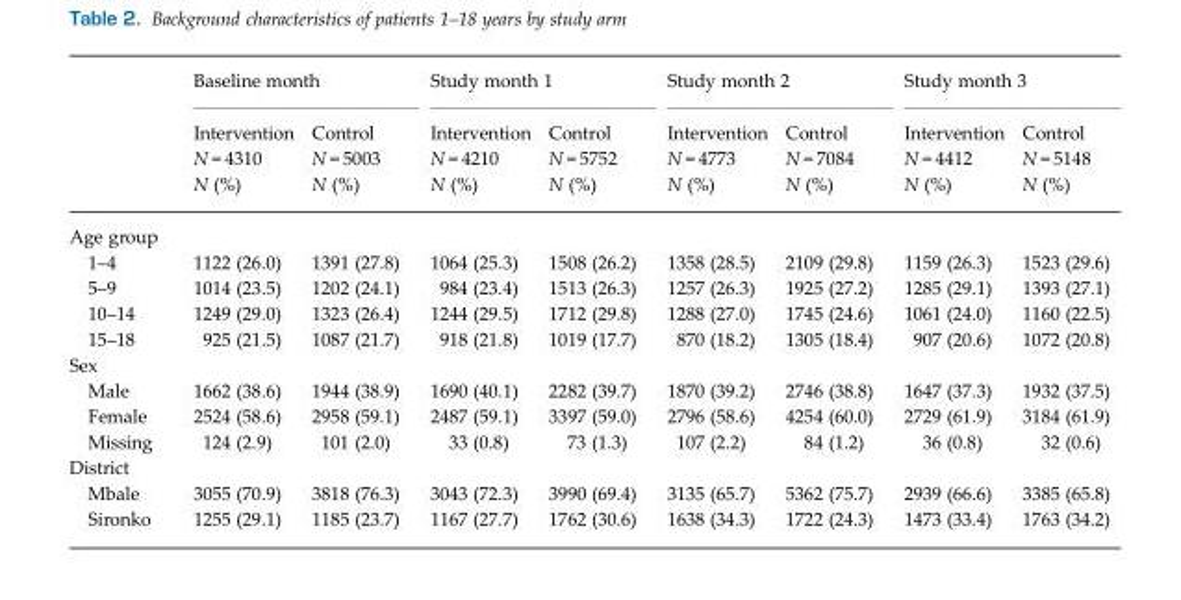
<table><thead><tr><td rowspan="2"></td><td colspan="2">Baseline month</td><td colspan="2">Study month 1</td><td colspan="2">Study month 2</td><td colspan="2">Study month 3</td></tr><tr><td>Intervention N = 4310 N (%)</td><td>Control N = 5003 N (%)</td><td>Intervention N = 4210 N (%)</td><td>Control N = 5752 N (%)</td><td>Intervention N = 4773 N (%)</td><td>Control N = 7084 N (%)</td><td>Intervention N = 4412 N (%)</td><td>Control N = 5148 N (%)</td></tr></thead><tbody><tr><td colspan="9">Age group</td></tr><tr><td>1–4</td><td>1122 (26.0)</td><td>1391 (27.8)</td><td>1064 (25.3)</td><td>1508 (26.2)</td><td>1358 (28.5)</td><td>2109 (29.8)</td><td>1159 (26.3)</td><td>1523 (29.6)</td></tr><tr><td>5–9</td><td>1014 (23.5)</td><td>1202 (24.1)</td><td>984 (23.4)</td><td>1513 (26.3)</td><td>1257 (26.3)</td><td>1925 (27.2)</td><td>1285 (29.1)</td><td>1393 (27.1)</td></tr><tr><td>10–14</td><td>1249 (29.0)</td><td>1323 (26.4)</td><td>1244 (29.5)</td><td>1712 (29.8)</td><td>1288 (27.0)</td><td>1745 (24.6)</td><td>1061 (24.0)</td><td>1160 (22.5)</td></tr><tr><td>15–18</td><td>925 (21.5)</td><td>1087 (21.7)</td><td>918 (21.8)</td><td>1019 (17.7)</td><td>870 (18.2)</td><td>1305 (18.4)</td><td>907 (20.6)</td><td>1072 (20.8)</td></tr><tr><td colspan="9">Sex</td></tr><tr><td>Male</td><td>1662 (38.6)</td><td>1944 (38.9)</td><td>1690 (40.1)</td><td>2282 (39.7)</td><td>1870 (39.2)</td><td>2746 (38.8)</td><td>1647 (37.3)</td><td>1932 (37.5)</td></tr><tr><td>Female</td><td>2524 (58.6)</td><td>2958 (59.1)</td><td>2487 (59.1)</td><td>3397 (59.0)</td><td>2796 (58.6)</td><td>4254 (60.0)</td><td>2729 (61.9)</td><td>3184 (61.9)</td></tr><tr><td>Missing</td><td>124 (2.9)</td><td>101 (2.0)</td><td>33 (0.8)</td><td>73 (1.3)</td><td>107 (2.2)</td><td>84 (1.2)</td><td>36 (0.8)</td><td>32 (0.6)</td></tr><tr><td colspan="9">District</td></tr><tr><td>Mbale</td><td>3055 (70.9)</td><td>3818 (76.3)</td><td>3043 (72.3)</td><td>3990 (69.4)</td><td>3135 (65.7)</td><td>5362 (75.7)</td><td>2939 (66.6)</td><td>3385 (65.8)</td></tr><tr><td>Sironko</td><td>1255 (29.1)</td><td>1185 (23.7)</td><td>1167 (27.7)</td><td>1762 (30.6)</td><td>1638 (34.3)</td><td>1722 (24.3)</td><td>1473 (33.4)</td><td>1763 (34.2)</td></tr></tbody></table>